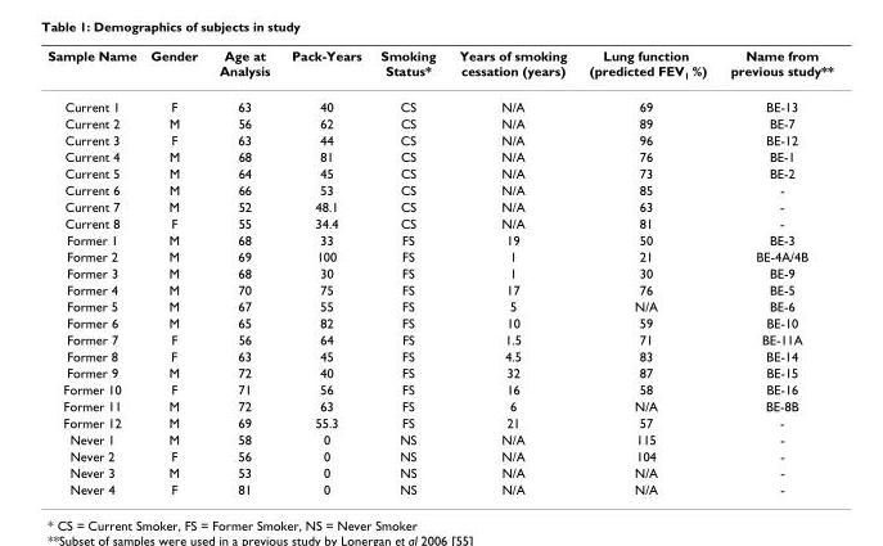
<table><thead><tr><td>Sample Name</td><td>Gender</td><td>Age at Analysis</td><td>Pack-Years</td><td>Smoking Status*</td><td>Years of smoking cessation (years)</td><td>Lung function (predicted FEV<sub>1</sub> %)</td><td>Name from previous study**</td></tr></thead><tbody><tr><td>Current 1</td><td>F</td><td>63</td><td>40</td><td>CS</td><td>N/A</td><td>69</td><td>BE-13</td></tr><tr><td>Current 2</td><td>M</td><td>56</td><td>62</td><td>CS</td><td>N/A</td><td>89</td><td>BE-7</td></tr><tr><td>Current 3</td><td>F</td><td>63</td><td>44</td><td>CS</td><td>N/A</td><td>96</td><td>BE-12</td></tr><tr><td>Current 4</td><td>M</td><td>68</td><td>81</td><td>CS</td><td>N/A</td><td>76</td><td>BE-1</td></tr><tr><td>Current 5</td><td>M</td><td>64</td><td>45</td><td>CS</td><td>N/A</td><td>73</td><td>BE-2</td></tr><tr><td>Current 6</td><td>M</td><td>66</td><td>53</td><td>CS</td><td>N/A</td><td>85</td><td>-</td></tr><tr><td>Current 7</td><td>M</td><td>52</td><td>48.1</td><td>CS</td><td>N/A</td><td>63</td><td>-</td></tr><tr><td>Current 8</td><td>F</td><td>55</td><td>34.4</td><td>CS</td><td>N/A</td><td>81</td><td>-</td></tr><tr><td>Former 1</td><td>M</td><td>68</td><td>33</td><td>FS</td><td>19</td><td>50</td><td>BE-3</td></tr><tr><td>Former 2</td><td>M</td><td>69</td><td>100</td><td>FS</td><td>1</td><td>21</td><td>BE-4A/4B</td></tr><tr><td>Former 3</td><td>M</td><td>68</td><td>30</td><td>FS</td><td>1</td><td>30</td><td>BE-9</td></tr><tr><td>Former 4</td><td>M</td><td>70</td><td>75</td><td>FS</td><td>17</td><td>76</td><td>BE-5</td></tr><tr><td>Former 5</td><td>M</td><td>67</td><td>55</td><td>FS</td><td>5</td><td>N/A</td><td>BE-6</td></tr><tr><td>Former 6</td><td>M</td><td>65</td><td>82</td><td>FS</td><td>10</td><td>59</td><td>BE-10</td></tr><tr><td>Former 7</td><td>F</td><td>56</td><td>64</td><td>FS</td><td>1.5</td><td>71</td><td>BE-11A</td></tr><tr><td>Former 8</td><td>F</td><td>63</td><td>45</td><td>FS</td><td>4.5</td><td>83</td><td>BE-14</td></tr><tr><td>Former 9</td><td>M</td><td>72</td><td>40</td><td>FS</td><td>32</td><td>87</td><td>BE-15</td></tr><tr><td>Former 10</td><td>F</td><td>71</td><td>56</td><td>FS</td><td>16</td><td>58</td><td>BE-16</td></tr><tr><td>Former 11</td><td>M</td><td>72</td><td>63</td><td>FS</td><td>6</td><td>N/A</td><td>BE-8B</td></tr><tr><td>Former 12</td><td>M</td><td>69</td><td>55.3</td><td>FS</td><td>21</td><td>57</td><td>-</td></tr><tr><td>Never 1</td><td>M</td><td>58</td><td>0</td><td>NS</td><td>N/A</td><td>115</td><td>-</td></tr><tr><td>Never 2</td><td>F</td><td>56</td><td>0</td><td>NS</td><td>N/A</td><td>104</td><td>-</td></tr><tr><td>Never 3</td><td>M</td><td>53</td><td>0</td><td>NS</td><td>N/A</td><td>N/A</td><td>-</td></tr><tr><td>Never 4</td><td>F</td><td>81</td><td>0</td><td>NS</td><td>N/A</td><td>N/A</td><td>-</td></tr></tbody></table>